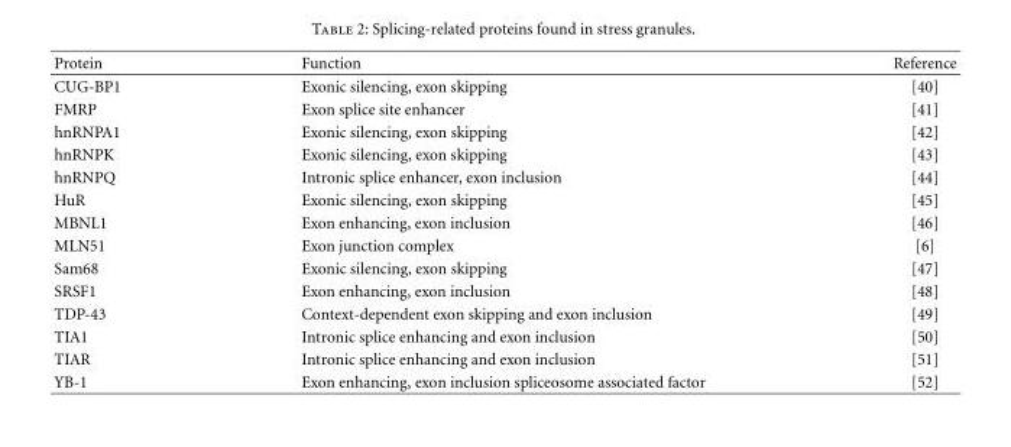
<table><thead><tr><td>Protein</td><td>Function</td><td>Reference</td></tr></thead><tbody><tr><td>CUG-BP1</td><td>Exonic silencing, exon skipping</td><td>[40]</td></tr><tr><td>FMRP</td><td>Exon splice site enhancer</td><td>[41]</td></tr><tr><td>hnRNPA1</td><td>Exonic silencing, exon skipping</td><td>[42]</td></tr><tr><td>hnRNPK</td><td>Exonic silencing, exon skipping</td><td>[43]</td></tr><tr><td>hnRNPQ</td><td>Intronic splice enhancer, exon inclusion</td><td>[44]</td></tr><tr><td>HuR</td><td>Exonic silencing, exon skipping</td><td>[45]</td></tr><tr><td>MBNL1</td><td>Exon enhancing, exon inclusion</td><td>[46]</td></tr><tr><td>MLN51</td><td>Exon junction complex</td><td>[6]</td></tr><tr><td>Sam68</td><td>Exonic silencing, exon skipping</td><td>[47]</td></tr><tr><td>SRSF1</td><td>Exon enhancing, exon inclusion</td><td>[48]</td></tr><tr><td>TDP-43</td><td>Context-dependent exon skipping and exon inclusion</td><td>[49]</td></tr><tr><td>TIA1</td><td>Intronic splice enhancing and exon inclusion</td><td>[50]</td></tr><tr><td>TIAR</td><td>Intronic splice enhancing and exon inclusion</td><td>[51]</td></tr><tr><td>YB-1</td><td>Exon enhancing, exon inclusion spliceosome associated factor</td><td>[52]</td></tr></tbody></table>